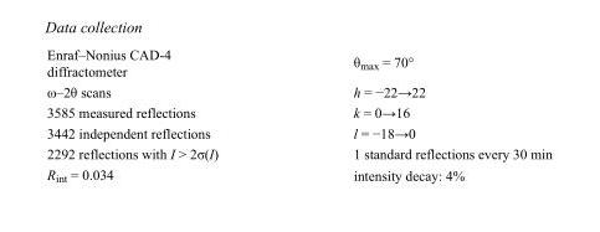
<table><tbody><tr><td>Enraf–Nonius CAD-4 diffractometer</td><td>θ<sub>max</sub> = 70°</td></tr><tr><td>ω–2θ scans</td><td>h = −22→22</td></tr><tr><td>3585 measured reflections</td><td>k = 0→16</td></tr><tr><td>3442 independent reflections</td><td>l = −18→0</td></tr><tr><td>2292 reflections with I &gt; 2σ(I)</td><td>1 standard reflections every 30 min</td></tr><tr><td>R<sub>int</sub> = 0.034</td><td>intensity decay: 4%</td></tr></tbody></table>